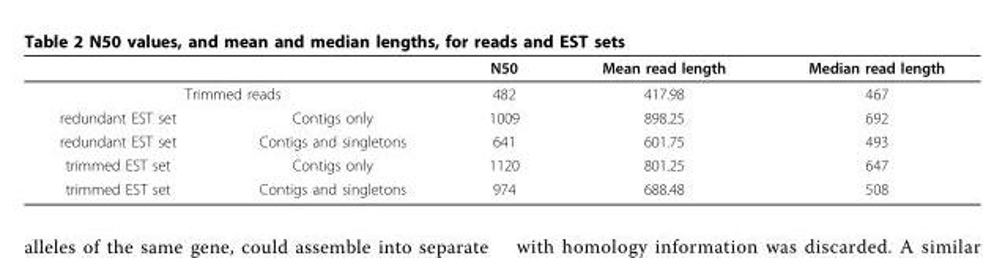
<table><thead><tr><td></td><td></td><td>N50</td><td>Mean read length</td><td>Median read length</td></tr></thead><tbody><tr><td colspan="2">Trimmed reads</td><td>482</td><td>417.98</td><td>467</td></tr><tr><td>redundant EST set</td><td>Contigs only</td><td>1009</td><td>898.25</td><td>692</td></tr><tr><td>redundant EST set</td><td>Contigs and singletons</td><td>641</td><td>601.75</td><td>493</td></tr><tr><td>trimmed EST set</td><td>Contigs only</td><td>1120</td><td>801.25</td><td>647</td></tr><tr><td>trimmed EST set</td><td>Contigs and singletons</td><td>974</td><td>688.48</td><td>508</td></tr></tbody></table>